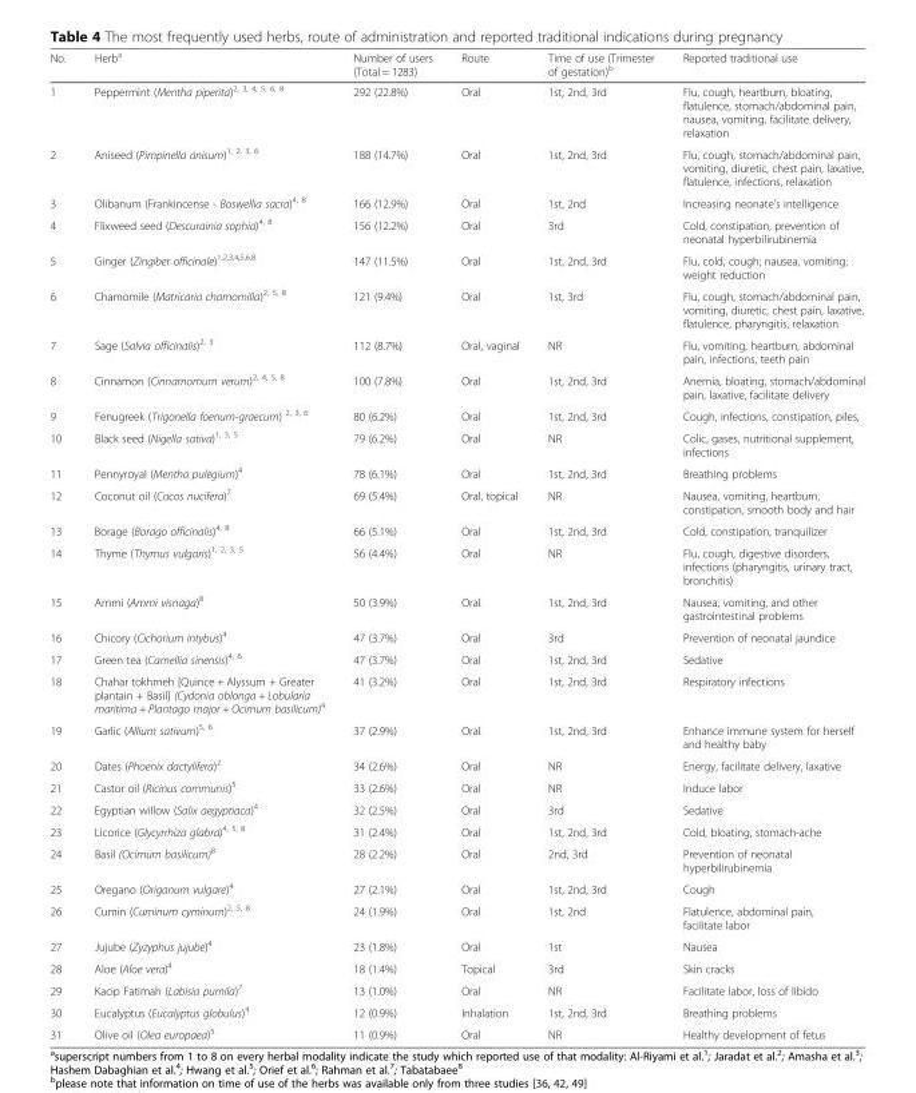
<table><thead><tr><td>No.</td><td>Herb<sup>a</sup></td><td>Number of users (Total = 1283)</td><td>Route</td><td>Time of use (Trimester of gestation)<sup>b</sup></td><td>Reported traditional use</td></tr></thead><tbody><tr><td>1</td><td>Peppermint (Mentha piperita)<sup>2, 3, 4, 5, 6, 8</sup></td><td>292 (22.8%)</td><td>Oral</td><td>1st, 2nd, 3rd</td><td>Flu, cough, heartburn, bloating, flatulence, stomach/abdominal pain, nausea, vomiting, facilitate delivery, relaxation</td></tr><tr><td>2</td><td>Aniseed (Pimpinella anisum)<sup>1, 2, 3, 6</sup></td><td>188 (14.7%)</td><td>Oral</td><td>1st, 2nd, 3rd</td><td>Flu, cough, stomach/abdominal pain, vomiting, diuretic, chest pain, laxative, flatulence, infections, relaxation</td></tr><tr><td>3</td><td>Olibanum (Frankincense - Boswellia sacra)<sup>4, 8</sup></td><td>166 (12.9%)</td><td>Oral</td><td>1st, 2nd</td><td>Increasing neonate’s intelligence</td></tr><tr><td>4</td><td>Flixweed seed (Descurainia sophia)<sup>4, 8</sup></td><td>156 (12.2%)</td><td>Oral</td><td>3rd</td><td>Cold, constipation, prevention of neonatal hyperbilirubinemia</td></tr><tr><td>5</td><td>Ginger (Zingiber officinale)<sup>1,2,3,4,5,6,8</sup></td><td>147 (11.5%)</td><td>Oral</td><td>1st, 2nd, 3rd</td><td>Flu, cold, cough; nausea, vomiting; weight reduction</td></tr><tr><td>6</td><td>Chamomile (Matricaria chamomilla)<sup>2, 5, 8</sup></td><td>121 (9.4%)</td><td>Oral</td><td>1st, 3rd</td><td>Flu, cough, stomach/abdominal pain, vomiting, diuretic, chest pain, laxative, flatulence, pharyngitis, relaxation</td></tr><tr><td>7</td><td>Sage (Salvia officinalis)<sup>2, 3</sup></td><td>112 (8.7%)</td><td>Oral, vaginal</td><td>NR</td><td>Flu, vomiting, heartburn, abdominal pain, infections, teeth pain</td></tr><tr><td>8</td><td>Cinnamon (Cinnamomum verum)<sup>2, 4, 5, 8</sup></td><td>100 (7.8%)</td><td>Oral</td><td>1st, 2nd, 3rd</td><td>Anemia, bloating, stomach/abdominal pain, laxative, facilitate delivery</td></tr><tr><td>9</td><td>Fenugreek (Trigonella foenum-graecum) <sup>2, 3, 6</sup></td><td>80 (6.2%)</td><td>Oral</td><td>1st, 2nd, 3rd</td><td>Cough, infections, constipation, piles,</td></tr><tr><td>10</td><td>Black seed (Nigella sativa)<sup>1, 3, 5</sup></td><td>79 (6.2%)</td><td>Oral</td><td>NR</td><td>Colic, gases, nutritional supplement, infections</td></tr><tr><td>11</td><td>Pennyroyal (Mentha pulegium)<sup>4</sup></td><td>78 (6.1%)</td><td>Oral</td><td>1st, 2nd, 3rd</td><td>Breathing problems</td></tr><tr><td>12</td><td>Coconut oil (Cocos nucifera)<sup>7</sup></td><td>69 (5.4%)</td><td>Oral, topical</td><td>NR</td><td>Nausea, vomiting, heartburn, constipation, smooth body and hair</td></tr><tr><td>13</td><td>Borage (Borago officinalis)<sup>4, 8</sup></td><td>66 (5.1%)</td><td>Oral</td><td>1st, 2nd, 3rd</td><td>Cold, constipation, tranquilizer</td></tr><tr><td>14</td><td>Thyme (Thymus vulgaris)<sup>1, 2, 3, 5</sup></td><td>56 (4.4%)</td><td>Oral</td><td>NR</td><td>Flu, cough, digestive disorders, infections (pharyngitis, urinary tract, bronchitis)</td></tr><tr><td>15</td><td>Ammi (Ammi visnaga)<sup>8</sup></td><td>50 (3.9%)</td><td>Oral</td><td>1st, 2nd, 3rd</td><td>Nausea, vomiting, and other gastrointestinal problems</td></tr><tr><td>16</td><td>Chicory (Cichorium intybus)<sup>4</sup></td><td>47 (3.7%)</td><td>Oral</td><td>3rd</td><td>Prevention of neonatal jaundice</td></tr><tr><td>17</td><td>Green tea (Camellia sinensis)<sup>4, 6</sup></td><td>47 (3.7%)</td><td>Oral</td><td>1st, 2nd, 3rd</td><td>Sedative</td></tr><tr><td>18</td><td>Chahar tokhmeh [Quince + Alyssum + Greater plantain + Basil] (Cydonia oblonga + Lobularia maritima + Plantago major + Ocimum basilicum)<sup>4</sup></td><td>41 (3.2%)</td><td>Oral</td><td>1st, 2nd, 3rd</td><td>Respiratory infections</td></tr><tr><td>19</td><td>Garlic (Allium sativum)<sup>5, 6</sup></td><td>37 (2.9%)</td><td>Oral</td><td>1st, 2nd, 3rd</td><td>Enhance immune system for herself and healthy baby</td></tr><tr><td>20</td><td>Dates (Phoenix dactylifera)<sup>2</sup></td><td>34 (2.6%)</td><td>Oral</td><td>NR</td><td>Energy, facilitate delivery, laxative</td></tr><tr><td>21</td><td>Castor oil (Ricinus communis)<sup>5</sup></td><td>33 (2.6%)</td><td>Oral</td><td>NR</td><td>Induce labor</td></tr><tr><td>22</td><td>Egyptian willow (Salix aegyptiaca)<sup>4</sup></td><td>32 (2.5%)</td><td>Oral</td><td>3rd</td><td>Sedative</td></tr><tr><td>23</td><td>Licorice (Glycyrrhiza glabra)<sup>4, 5, 8</sup></td><td>31 (2.4%)</td><td>Oral</td><td>1st, 2nd, 3rd</td><td>Cold, bloating, stomach-ache</td></tr><tr><td>24</td><td>Basil (Ocimum basilicum)<sup>8</sup></td><td>28 (2.2%)</td><td>Oral</td><td>2nd, 3rd</td><td>Prevention of neonatal hyperbilirubinemia</td></tr><tr><td>25</td><td>Oregano (Origanum vulgare)<sup>4</sup></td><td>27 (2.1%)</td><td>Oral</td><td>1st, 2nd, 3rd</td><td>Cough</td></tr><tr><td>26</td><td>Cumin (Cuminum cyminum)<sup>2, 5, 8</sup></td><td>24 (1.9%)</td><td>Oral</td><td>1st, 2nd</td><td>Flatulence, abdominal pain, facilitate labor</td></tr><tr><td>27</td><td>Jujube (Zyzyphus jujube)<sup>4</sup></td><td>23 (1.8%)</td><td>Oral</td><td>1st</td><td>Nausea</td></tr><tr><td>28</td><td>Aloe (Aloe vera)<sup>4</sup></td><td>18 (1.4%)</td><td>Topical</td><td>3rd</td><td>Skin cracks</td></tr><tr><td>29</td><td>Kacip Fatimah (Labisia pumila)<sup>7</sup></td><td>13 (1.0%)</td><td>Oral</td><td>NR</td><td>Facilitate labor, loss of libido</td></tr><tr><td>30</td><td>Eucalyptus (Eucalyptus globulus)<sup>4</sup></td><td>12 (0.9%)</td><td>Inhalation</td><td>1st, 2nd, 3rd</td><td>Breathing problems</td></tr><tr><td>31</td><td>Olive oil (Olea europaea)<sup>5</sup></td><td>11 (0.9%)</td><td>Oral</td><td>NR</td><td>Healthy development of fetus</td></tr></tbody></table>